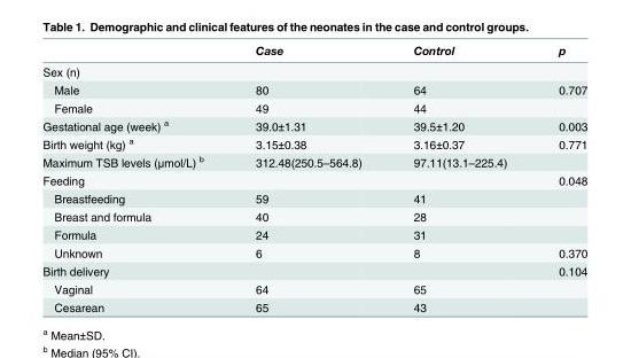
<table><thead><tr><td></td><td>Case</td><td>Control</td><td>p</td></tr></thead><tbody><tr><td colspan="4">Sex (n)</td></tr><tr><td>Male</td><td>80</td><td>64</td><td>0.707</td></tr><tr><td>Female</td><td>49</td><td>44</td><td></td></tr><tr><td>Gestational age (week) <sup>a</sup></td><td>39.0±1.31</td><td>39.5±1.20</td><td>0.003</td></tr><tr><td>Birth weight (kg) <sup>a</sup></td><td>3.15±0.38</td><td>3.16±0.37</td><td>0.771</td></tr><tr><td>Maximum TSB levels (μmol/L) <sup>b</sup></td><td>312.48(250.5–564.8)</td><td>97.11(13.1–225.4)</td><td></td></tr><tr><td>Feeding</td><td></td><td></td><td>0.048</td></tr><tr><td>Breastfeeding</td><td>59</td><td>41</td><td></td></tr><tr><td>Breast and formula</td><td>40</td><td>28</td><td></td></tr><tr><td>Formula</td><td>24</td><td>31</td><td></td></tr><tr><td>Unknown</td><td>6</td><td>8</td><td>0.370</td></tr><tr><td>Birth delivery</td><td></td><td></td><td>0.104</td></tr><tr><td>Vaginal</td><td>64</td><td>65</td><td></td></tr><tr><td>Cesarean</td><td>65</td><td>43</td><td></td></tr></tbody></table>